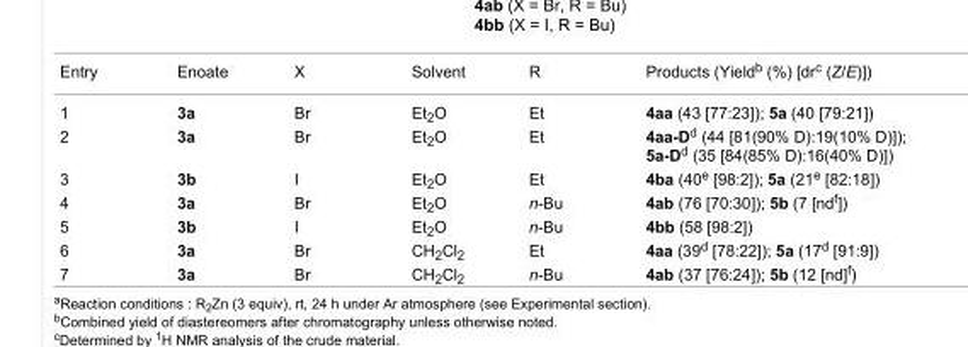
<table><tbody><tr><td>Entry</td><td>Enoate</td><td>X</td><td>Solvent</td><td>R</td><td>Products (Yield<sup>b</sup> (%) [dr<sup>c</sup> (Z/E)])</td></tr><tr><td>1</td><td>3a</td><td>Br</td><td>Et<sub>2</sub>O</td><td>Et</td><td>4aa (43 [77:23]); 5a (40 [79:21])</td></tr><tr><td>2</td><td>3a</td><td>Br</td><td>Et<sub>2</sub>O</td><td>Et</td><td>4aa-D<sup>d</sup> (44 [81(90% D):19(10% D)]); 5a-D<sup>d</sup> (35 [84(85% D):16(40% D)])</td></tr><tr><td>3</td><td>3b</td><td>I</td><td>Et<sub>2</sub>O</td><td>Et</td><td>4ba (40<sup>e</sup> [98:2]); 5a (21<sup>e</sup> [82:18])</td></tr><tr><td>4</td><td>3a</td><td>Br</td><td>Et<sub>2</sub>O</td><td>n-Bu</td><td>4ab (76 [70:30]); 5b (7 [nd<sup>f</sup>])</td></tr><tr><td>5</td><td>3b</td><td>I</td><td>Et<sub>2</sub>O</td><td>n-Bu</td><td>4bb (58 [98:2])</td></tr><tr><td>6</td><td>3a</td><td>Br</td><td>CH<sub>2</sub>Cl<sub>2</sub></td><td>Et</td><td>4aa (39<sup>d</sup> [78:22]); 5a (17<sup>d</sup> [91:9])</td></tr><tr><td>7</td><td>3a</td><td>Br</td><td>CH<sub>2</sub>Cl<sub>2</sub></td><td>n-Bu</td><td>4ab (37 [76:24]); 5b (12 [nd]<sup>f</sup>)</td></tr></tbody></table>